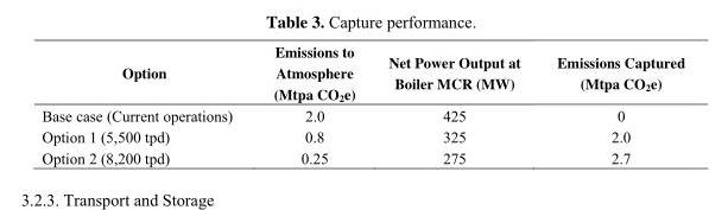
<table><thead><tr><td>Option</td><td>Emissions to Atmosphere (Mtpa CO<sub>2</sub>e)</td><td>Net Power Output at Boiler MCR (MW)</td><td>Emissions Captured (Mtpa CO<sub>2</sub>e)</td></tr></thead><tbody><tr><td>Base case (Current operations)</td><td>2.0</td><td>425</td><td>0</td></tr><tr><td>Option 1 (5,500 tpd)</td><td>0.8</td><td>325</td><td>2.0</td></tr><tr><td>Option 2 (8,200 tpd)</td><td>0.25</td><td>275</td><td>2.7</td></tr></tbody></table>